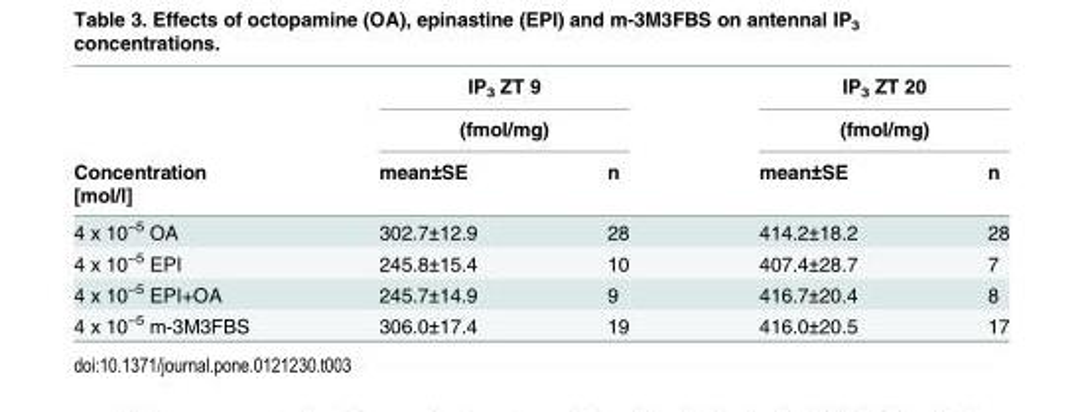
<table><thead><tr><td rowspan="4">Concentration [mol/l]</td><td rowspan="2" colspan="2">IP<sub>3</sub> ZT 9 (fmol/mg)</td><td rowspan="2" colspan="2">IP<sub>3</sub> ZT 20 (fmol/mg)</td></tr><tr></tr><tr><td rowspan="2">mean±SE</td><td rowspan="2">n</td><td rowspan="2">mean±SE</td><td rowspan="2">n</td></tr><tr></tr></thead><tbody><tr><td>4 x 10<sup>–5</sup> OA</td><td>302.7±12.9</td><td>28</td><td>414.2±18.2</td><td>28</td></tr><tr><td>4 x 10<sup>–5</sup> EPI</td><td>245.8±15.4</td><td>10</td><td>407.4±28.7</td><td>7</td></tr><tr><td>4 x 10<sup>–5</sup> EPI+OA</td><td>245.7±14.9</td><td>9</td><td>416.7±20.4</td><td>8</td></tr><tr><td>4 x 10<sup>–5</sup> m-3M3FBS</td><td>306.0±17.4</td><td>19</td><td>416.0±20.5</td><td>17</td></tr></tbody></table>